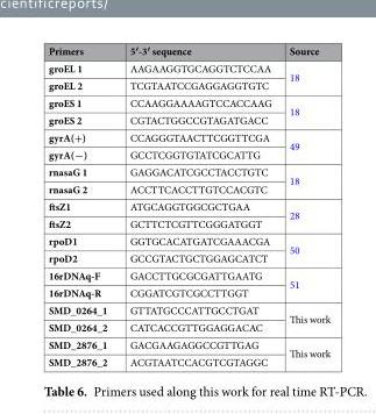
<table><thead><tr><td>Primers</td><td>5′-3′ sequence</td><td>Source</td></tr></thead><tbody><tr><td>groEL 1</td><td>AAGAAGGTGCAGGTCTCCAA</td><td rowspan="2">18</td></tr><tr><td>groEL 2</td><td>TCGTAATCCGAGGAGGTGTC</td></tr><tr><td>groES 1</td><td>CCAAGGAAAAGTCCACCAAG</td><td rowspan="2">18</td></tr><tr><td>groES 2</td><td>CGTACTGGCCGTAGATGACC</td></tr><tr><td>gyrA(+)</td><td>CCAGGGTAACTTCGGTTCGA</td><td rowspan="2">49</td></tr><tr><td>gyrA(−)</td><td>GCCTCGGTGTATCGCATTG</td></tr><tr><td>rnasaG 1</td><td>GAGGACATCGCCTACCTGTC</td><td rowspan="2">18</td></tr><tr><td>rnasaG 2</td><td>ACCTTCACCTTGTCCACGTC</td></tr><tr><td>ftsZ1</td><td>ATGCAGGTGGCGCTGAA</td><td rowspan="2">28</td></tr><tr><td>ftsZ2</td><td>GCTTCTCGTTCGGGATGGT</td></tr><tr><td>rpoD1</td><td>GGTGCACATGATCGAAACGA</td><td rowspan="2">50</td></tr><tr><td>rpoD2</td><td>GCCGTACTGCTGGAGCATCT</td></tr><tr><td>16rDNAq-F</td><td>GACCTTGCGCGATTGAATG</td><td rowspan="2">51</td></tr><tr><td>16rDNAq-R</td><td>CGGATCGTCGCCTTGGT</td></tr><tr><td>SMD_0264_1</td><td>GTTATGCCCATTGCCTGAT</td><td rowspan="2">This work</td></tr><tr><td>SMD_0264_2</td><td>CATCACCGTTGGAGGACAC</td></tr><tr><td>SMD_2876_1</td><td>GACGAAGAGGCCGTTGAG</td><td rowspan="2">This work</td></tr><tr><td>SMD_2876_2</td><td>ACGTAATCCACGTCGTAGGC</td></tr></tbody></table>